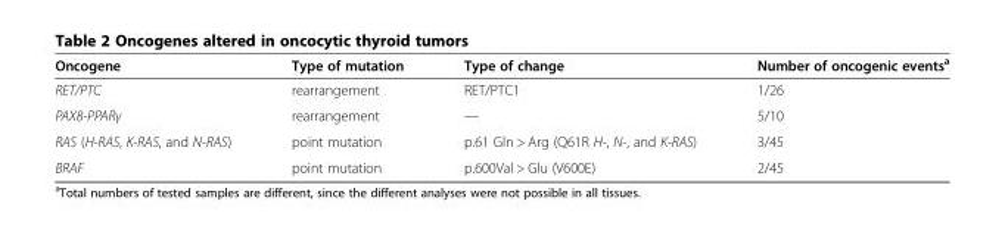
<table><thead><tr><td>Oncogene</td><td>Type of mutation</td><td>Type of change</td><td>Number of oncogenic events<sup>a</sup></td></tr></thead><tbody><tr><td>RET/PTC</td><td>rearrangement</td><td>RET/PTC1</td><td>1/26</td></tr><tr><td>PAX8-PPARγ</td><td>rearrangement</td><td>—</td><td>5/10</td></tr><tr><td>RAS (H-RAS, K-RAS, and N-RAS)</td><td>point mutation</td><td>p.61 Gln &gt; Arg (Q61R H-, N-, and K-RAS)</td><td>3/45</td></tr><tr><td>BRAF</td><td>point mutation</td><td>p.600Val &gt; Glu (V600E)</td><td>2/45</td></tr></tbody></table>